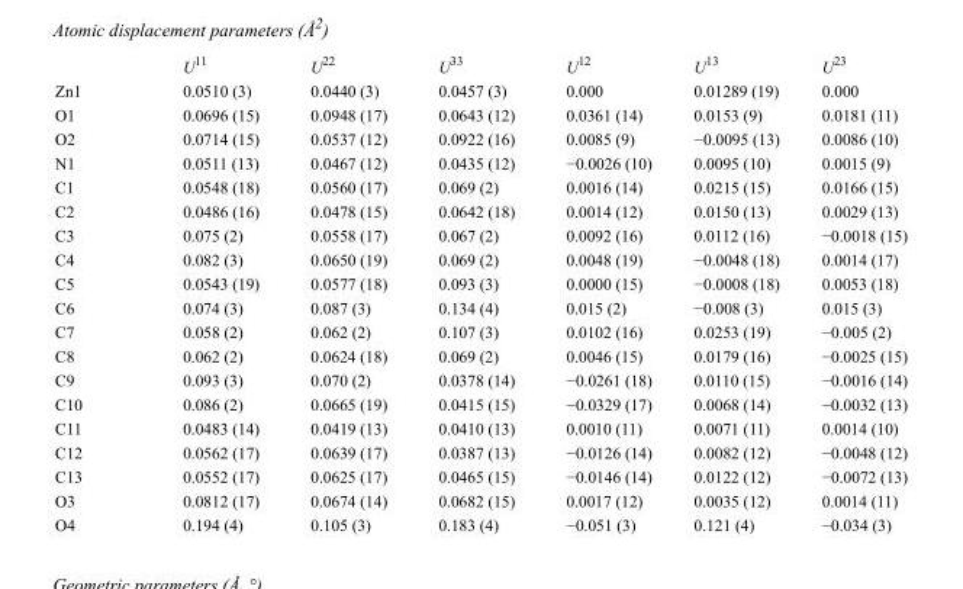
<table><thead><tr><td></td><td>U<sup>11</sup></td><td>U<sup>22</sup></td><td>U<sup>33</sup></td><td>U<sup>12</sup></td><td>U<sup>13</sup></td><td>U<sup>23</sup></td></tr></thead><tbody><tr><td>Zn1</td><td>0.0510 (3)</td><td>0.0440 (3)</td><td>0.0457 (3)</td><td>0.000</td><td>0.01289 (19)</td><td>0.000</td></tr><tr><td>O1</td><td>0.0696 (15)</td><td>0.0948 (17)</td><td>0.0643 (12)</td><td>0.0361 (14)</td><td>0.0153 (9)</td><td>0.0181 (11)</td></tr><tr><td>O2</td><td>0.0714 (15)</td><td>0.0537 (12)</td><td>0.0922 (16)</td><td>0.0085 (9)</td><td>−0.0095 (13)</td><td>0.0086 (10)</td></tr><tr><td>N1</td><td>0.0511 (13)</td><td>0.0467 (12)</td><td>0.0435 (12)</td><td>−0.0026 (10)</td><td>0.0095 (10)</td><td>0.0015 (9)</td></tr><tr><td>C1</td><td>0.0548 (18)</td><td>0.0560 (17)</td><td>0.069 (2)</td><td>0.0016 (14)</td><td>0.0215 (15)</td><td>0.0166 (15)</td></tr><tr><td>C2</td><td>0.0486 (16)</td><td>0.0478 (15)</td><td>0.0642 (18)</td><td>0.0014 (12)</td><td>0.0150 (13)</td><td>0.0029 (13)</td></tr><tr><td>C3</td><td>0.075 (2)</td><td>0.0558 (17)</td><td>0.067 (2)</td><td>0.0092 (16)</td><td>0.0112 (16)</td><td>−0.0018 (15)</td></tr><tr><td>C4</td><td>0.082 (3)</td><td>0.0650 (19)</td><td>0.069 (2)</td><td>0.0048 (19)</td><td>−0.0048 (18)</td><td>0.0014 (17)</td></tr><tr><td>C5</td><td>0.0543 (19)</td><td>0.0577 (18)</td><td>0.093 (3)</td><td>0.0000 (15)</td><td>−0.0008 (18)</td><td>0.0053 (18)</td></tr><tr><td>C6</td><td>0.074 (3)</td><td>0.087 (3)</td><td>0.134 (4)</td><td>0.015 (2)</td><td>−0.008 (3)</td><td>0.015 (3)</td></tr><tr><td>C7</td><td>0.058 (2)</td><td>0.062 (2)</td><td>0.107 (3)</td><td>0.0102 (16)</td><td>0.0253 (19)</td><td>−0.005 (2)</td></tr><tr><td>C8</td><td>0.062 (2)</td><td>0.0624 (18)</td><td>0.069 (2)</td><td>0.0046 (15)</td><td>0.0179 (16)</td><td>−0.0025 (15)</td></tr><tr><td>C9</td><td>0.093 (3)</td><td>0.070 (2)</td><td>0.0378 (14)</td><td>−0.0261 (18)</td><td>0.0110 (15)</td><td>−0.0016 (14)</td></tr><tr><td>C10</td><td>0.086 (2)</td><td>0.0665 (19)</td><td>0.0415 (15)</td><td>−0.0329 (17)</td><td>0.0068 (14)</td><td>−0.0032 (13)</td></tr><tr><td>C11</td><td>0.0483 (14)</td><td>0.0419 (13)</td><td>0.0410 (13)</td><td>0.0010 (11)</td><td>0.0071 (11)</td><td>0.0014 (10)</td></tr><tr><td>C12</td><td>0.0562 (17)</td><td>0.0639 (17)</td><td>0.0387 (13)</td><td>−0.0126 (14)</td><td>0.0082 (12)</td><td>−0.0048 (12)</td></tr><tr><td>C13</td><td>0.0552 (17)</td><td>0.0625 (17)</td><td>0.0465 (15)</td><td>−0.0146 (14)</td><td>0.0122 (12)</td><td>−0.0072 (13)</td></tr><tr><td>O3</td><td>0.0812 (17)</td><td>0.0674 (14)</td><td>0.0682 (15)</td><td>0.0017 (12)</td><td>0.0035 (12)</td><td>0.0014 (11)</td></tr><tr><td>O4</td><td>0.194 (4)</td><td>0.105 (3)</td><td>0.183 (4)</td><td>−0.051 (3)</td><td>0.121 (4)</td><td>−0.034 (3)</td></tr></tbody></table>